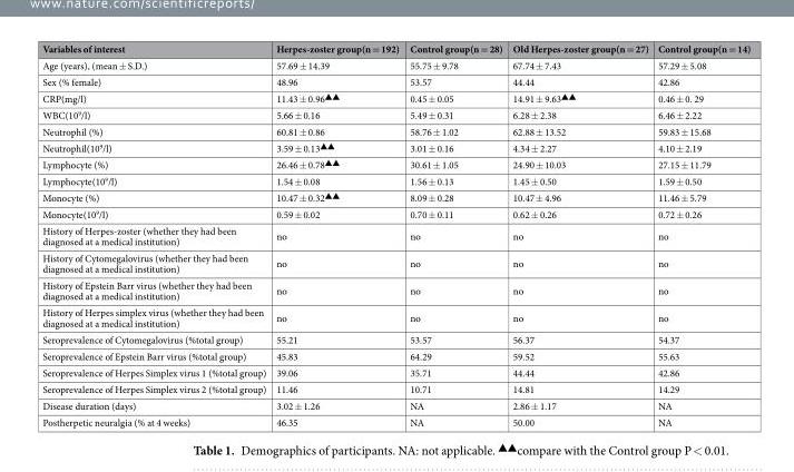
<table><thead><tr><td>Variables of interest</td><td>Herpes-zoster group(n = 192)</td><td>Control group(n = 28)</td><td>Old Herpes-zoster group(n = 27)</td><td>Control group(n = 14)</td></tr></thead><tbody><tr><td>Age (years), (mean ± S.D.)</td><td>57.69 ± 14.39</td><td>55.75 ± 9.78</td><td>67.74 ± 7.43</td><td>57.29 ± 5.08</td></tr><tr><td>Sex (% female)</td><td>48.96</td><td>53.57</td><td>44.44</td><td>42.86</td></tr><tr><td>CRP(mg/l)</td><td>11.43 ± 0.96<sup>▲▲</sup></td><td>0.45 ± 0.05</td><td>14.91 ± 9.63<sup>▲▲</sup></td><td>0.46 ± 0. 29</td></tr><tr><td>WBC(10<sup>9</sup>/l)</td><td>5.66 ± 0.16</td><td>5.49 ± 0.31</td><td>6.28 ± 2.38</td><td>6.46 ± 2.22</td></tr><tr><td>Neutrophil (%)</td><td>60.81 ± 0.86</td><td>58.76 ± 1.02</td><td>62.88 ± 13.52</td><td>59.83 ± 15.68</td></tr><tr><td>Neutrophil(10<sup>9</sup>/l)</td><td>3.59 ± 0.13<sup>▲▲</sup></td><td>3.01 ± 0.16</td><td>4.34 ± 2.27</td><td>4.10 ± 2.19</td></tr><tr><td>Lymphocyte (%)</td><td>26.46 ± 0.78<sup>▲▲</sup></td><td>30.61 ± 1.05</td><td>24.90 ± 10.03</td><td>27.15 ± 11.79</td></tr><tr><td>Lymphocyte(10<sup>9</sup>/l)</td><td>1.54 ± 0.08</td><td>1.56 ± 0.13</td><td>1.45 ± 0.50</td><td>1.59 ± 0.50</td></tr><tr><td>Monocyte (%)</td><td>10.47 ± 0.32<sup>▲▲</sup></td><td>8.09 ± 0.28</td><td>10.47 ± 4.96</td><td>11.46 ± 5.79</td></tr><tr><td>Monocyte(10<sup>9</sup>/l)</td><td>0.59 ± 0.02</td><td>0.70 ± 0.11</td><td>0.62 ± 0.26</td><td>0.72 ± 0.26</td></tr><tr><td>History of Herpes-zoster (whether they had been diagnosed at a medical institution)</td><td>no</td><td>no</td><td>no</td><td>no</td></tr><tr><td>History of Cytomegalovirus (whether they had been diagnosed at a medical institution)</td><td>no</td><td>no</td><td>no</td><td>no</td></tr><tr><td>History of Epstein Barr virus (whether they had been diagnosed at a medical institution)</td><td>no</td><td>no</td><td>no</td><td>no</td></tr><tr><td>History of Herpes simplex virus (whether they had been diagnosed at a medical institution)</td><td>no</td><td>no</td><td>no</td><td>no</td></tr><tr><td>Seroprevalence of Cytomegalovirus (%total group)</td><td>55.21</td><td>53.57</td><td>56.37</td><td>54.37</td></tr><tr><td>Seroprevalence of Epstein Barr virus (%total group)</td><td>45.83</td><td>64.29</td><td>59.52</td><td>55.63</td></tr><tr><td>Seroprevalence of Herpes Simplex virus 1 (%total group)</td><td>39.06</td><td>35.71</td><td>44.44</td><td>42.86</td></tr><tr><td>Seroprevalence of Herpes Simplex virus 2 (%total group)</td><td>11.46</td><td>10.71</td><td>14.81</td><td>14.29</td></tr><tr><td>Disease duration (days)</td><td>3.02 ± 1.26</td><td>NA</td><td>2.86 ± 1.17</td><td>NA</td></tr><tr><td>Postherpetic neuralgia (% at 4 weeks)</td><td>46.35</td><td>NA</td><td>50.00</td><td>NA</td></tr></tbody></table>